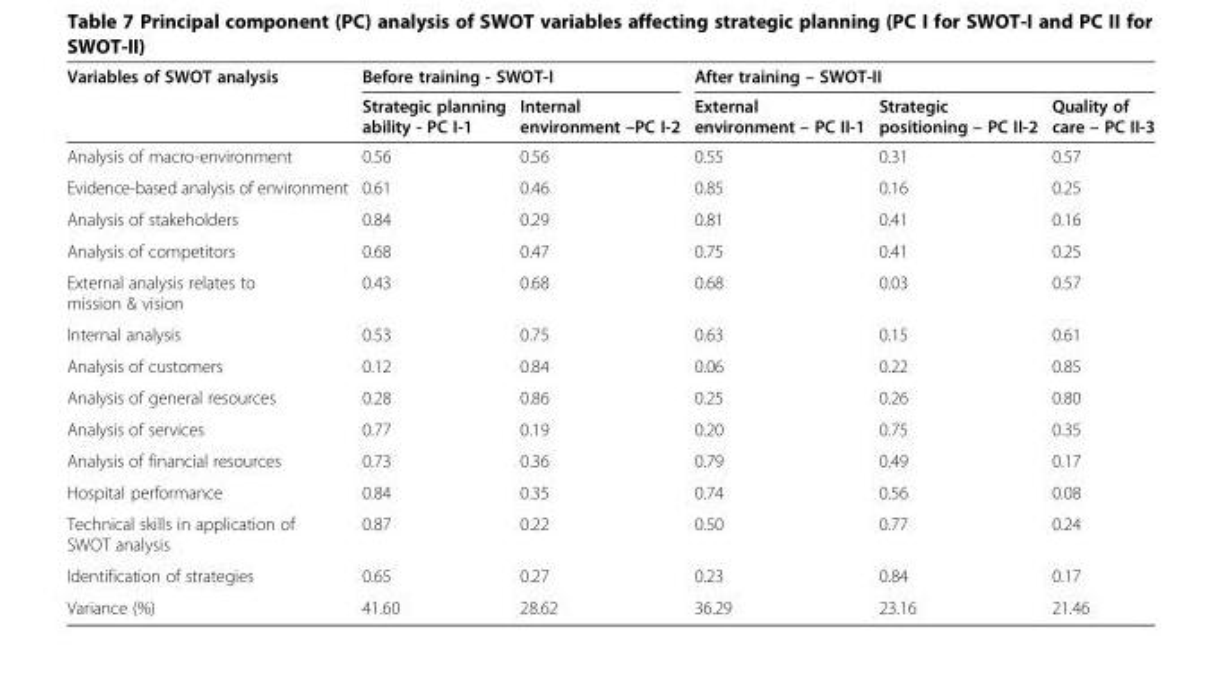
<table><thead><tr><td rowspan="2">Variables of SWOT analysis</td><td colspan="2">Before training - SWOT-I</td><td colspan="3">After training – SWOT-II</td></tr><tr><td>Strategic planning ability - PC I-1</td><td>Internal environment –PC I-2</td><td>External environment – PC II-1</td><td>Strategic positioning – PC II-2</td><td>Quality of care – PC II-3</td></tr></thead><tbody><tr><td>Analysis of macro-environment</td><td>0.56</td><td>0.56</td><td>0.55</td><td>0.31</td><td>0.57</td></tr><tr><td>Evidence-based analysis of environment</td><td>0.61</td><td>0.46</td><td>0.85</td><td>0.16</td><td>0.25</td></tr><tr><td>Analysis of stakeholders</td><td>0.84</td><td>0.29</td><td>0.81</td><td>0.41</td><td>0.16</td></tr><tr><td>Analysis of competitors</td><td>0.68</td><td>0.47</td><td>0.75</td><td>0.41</td><td>0.25</td></tr><tr><td>External analysis relates to mission &amp; vision</td><td>0.43</td><td>0.68</td><td>0.68</td><td>0.03</td><td>0.57</td></tr><tr><td>Internal analysis</td><td>0.53</td><td>0.75</td><td>0.63</td><td>0.15</td><td>0.61</td></tr><tr><td>Analysis of customers</td><td>0.12</td><td>0.84</td><td>0.06</td><td>0.22</td><td>0.85</td></tr><tr><td>Analysis of general resources</td><td>0.28</td><td>0.86</td><td>0.25</td><td>0.26</td><td>0.80</td></tr><tr><td>Analysis of services</td><td>0.77</td><td>0.19</td><td>0.20</td><td>0.75</td><td>0.35</td></tr><tr><td>Analysis of financial resources</td><td>0.73</td><td>0.36</td><td>0.79</td><td>0.49</td><td>0.17</td></tr><tr><td>Hospital performance</td><td>0.84</td><td>0.35</td><td>0.74</td><td>0.56</td><td>0.08</td></tr><tr><td>Technical skills in application of SWOT analysis</td><td>0.87</td><td>0.22</td><td>0.50</td><td>0.77</td><td>0.24</td></tr><tr><td>Identification of strategies</td><td>0.65</td><td>0.27</td><td>0.23</td><td>0.84</td><td>0.17</td></tr><tr><td>Variance (%)</td><td>41.60</td><td>28.62</td><td>36.29</td><td>23.16</td><td>21.46</td></tr></tbody></table>